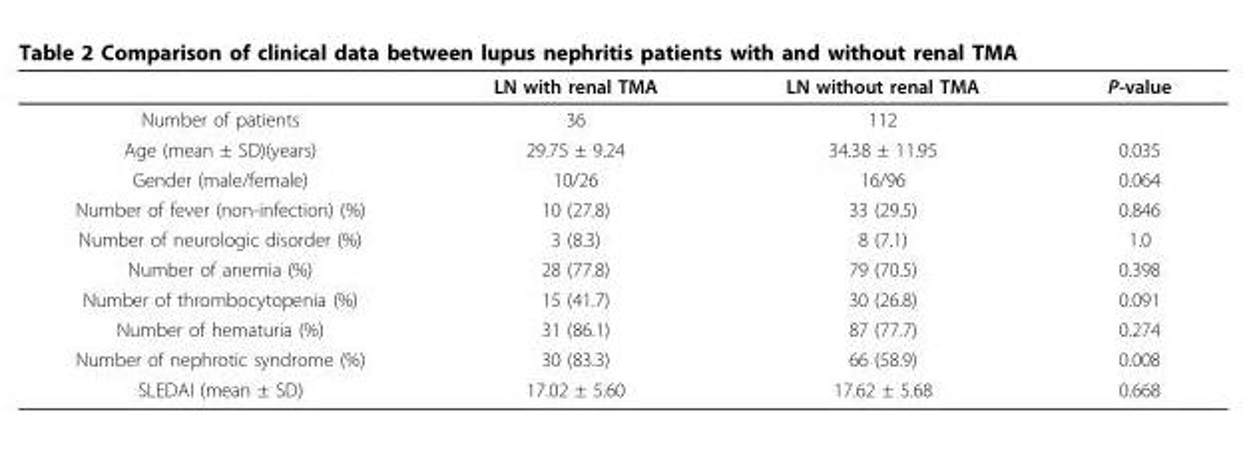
<table><thead><tr><td></td><td>LN with renal TMA</td><td>LN without renal TMA</td><td>P-value</td></tr></thead><tbody><tr><td>Number of patients</td><td>36</td><td>112</td><td></td></tr><tr><td>Age (mean ± SD)(years)</td><td>29.75 ± 9.24</td><td>34.38 ± 11.95</td><td>0.035</td></tr><tr><td>Gender (male/female)</td><td>10/26</td><td>16/96</td><td>0.064</td></tr><tr><td>Number of fever (non-infection) (%)</td><td>10 (27.8)</td><td>33 (29.5)</td><td>0.846</td></tr><tr><td>Number of neurologic disorder (%)</td><td>3 (8.3)</td><td>8 (7.1)</td><td>1.0</td></tr><tr><td>Number of anemia (%)</td><td>28 (77.8)</td><td>79 (70.5)</td><td>0.398</td></tr><tr><td>Number of thrombocytopenia (%)</td><td>15 (41.7)</td><td>30 (26.8)</td><td>0.091</td></tr><tr><td>Number of hematuria (%)</td><td>31 (86.1)</td><td>87 (77.7)</td><td>0.274</td></tr><tr><td>Number of nephrotic syndrome (%)</td><td>30 (83.3)</td><td>66 (58.9)</td><td>0.008</td></tr><tr><td>SLEDAI (mean ± SD)</td><td>17.02 ± 5.60</td><td>17.62 ± 5.68</td><td>0.668</td></tr></tbody></table>